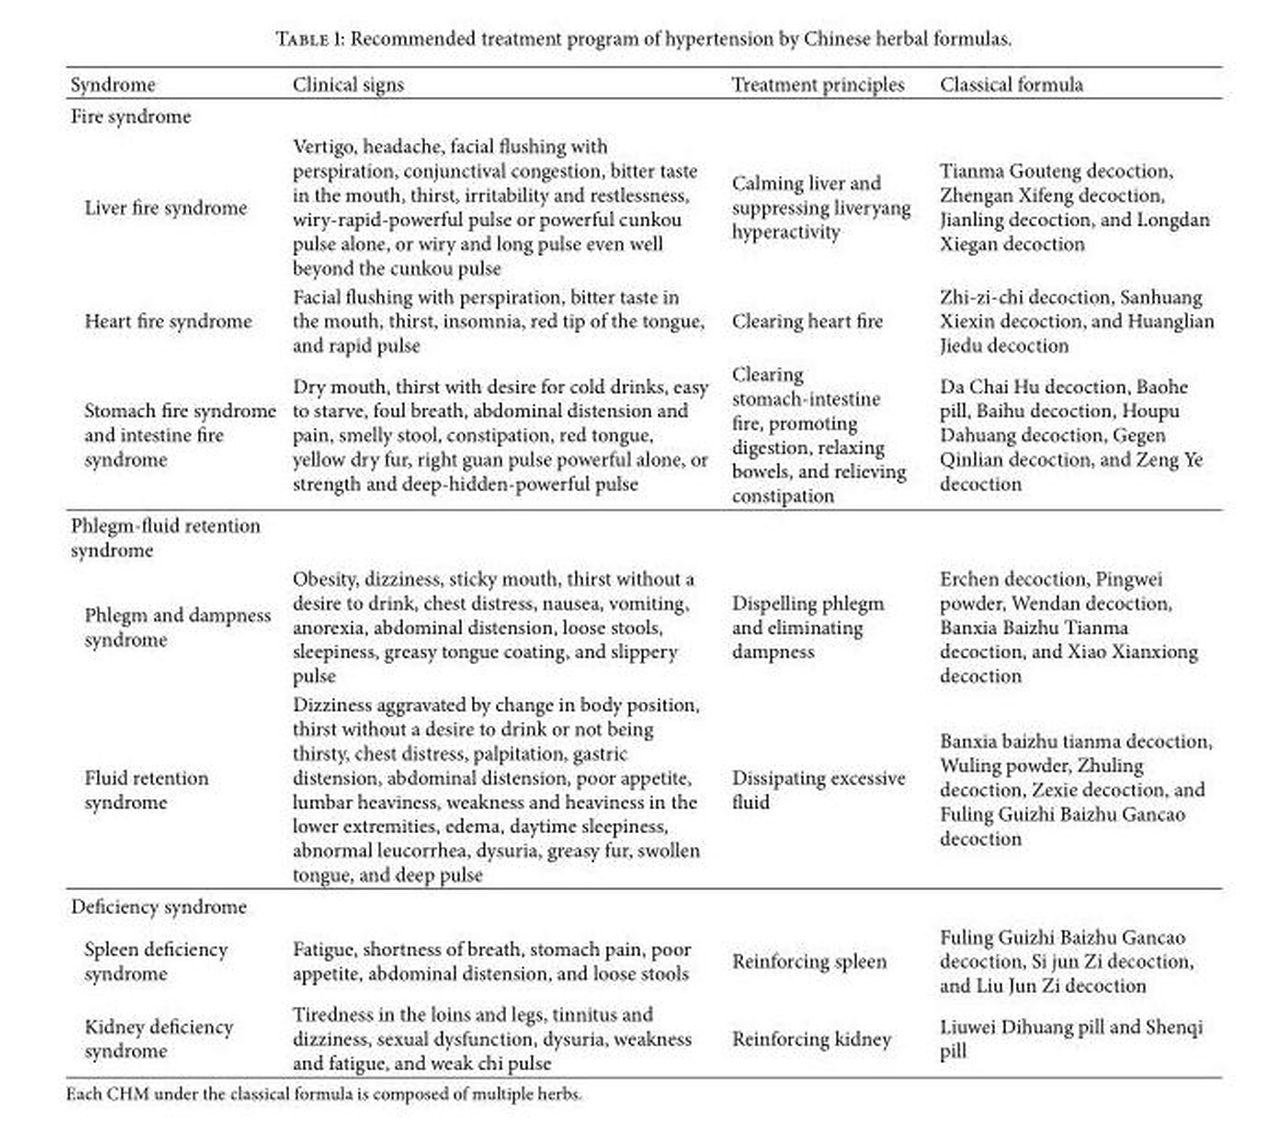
<table><thead><tr><td>Syndrome</td><td>Clinical signs</td><td>Treatment principles</td><td>Classical formula</td></tr></thead><tbody><tr><td colspan="4">Fire syndrome</td></tr><tr><td>Liver fire syndrome</td><td>Vertigo, headache, facial flushing with perspiration, conjunctival congestion, bitter taste in the mouth, thirst, irritability and restlessness, wiry-rapid-powerful pulse or powerful cunkou pulse alone, or wiry and long pulse even well beyond the cunkou pulse</td><td>Calming liver and suppressing liveryang hyperactivity</td><td>Tianma Gouteng decoction, Zhengan Xifeng decoction, Jianling decoction, and Longdan Xiegan decoction</td></tr><tr><td>Heart fire syndrome</td><td>Facial flushing with perspiration, bitter taste in the mouth, thirst, insomnia, red tip of the tongue, and rapid pulse</td><td>Clearing heart fire</td><td>Zhi-zi-chi decoction, Sanhuang Xiexin decoction, and Huanglian Jiedu decoction</td></tr><tr><td>Stomach fire syndrome and intestine fire syndrome</td><td>Dry mouth, thirst with desire for cold drinks, easy to starve, foul breath, abdominal distension and pain, smelly stool, constipation, red tongue, yellow dry fur, right guan pulse powerful alone, or strength and deep-hidden-powerful pulse</td><td>Clearing stomach-intestine fire, promoting digestion, relaxing bowels, and relieving constipation</td><td>Da Chai Hu decoction, Baohe pill, Baihu decoction, Houpu Dahuang decoction, Gegen Qinlian decoction, and Zeng Ye decoction</td></tr><tr><td colspan="4">Phlegm-fluid retention syndrome</td></tr><tr><td>Phlegm and dampness syndrome</td><td>Obesity, dizziness, sticky mouth, thirst without a desire to drink, chest distress, nausea, vomiting, anorexia, abdominal distension, loose stools, sleepiness, greasy tongue coating, and slippery pulse</td><td>Dispelling phlegm and eliminating dampness</td><td>Erchen decoction, Pingwei powder, Wendan decoction, Banxia Baizhu Tianma decoction, and Xiao Xianxiong decoction</td></tr><tr><td>Fluid retention syndrome</td><td>Dizziness aggravated by change in body position, thirst without a desire to drink or not being thirsty, chest distress, palpitation, gastric distension, abdominal distension, poor appetite, lumbar heaviness, weakness and heaviness in the lower extremities, edema, daytime sleepiness, abnormal leucorrhea, dysuria, greasy fur, swollen tongue, and deep pulse</td><td>Dissipating excessive fluid</td><td>Banxia baizhu tianma decoction, Wuling powder, Zhuling decoction, Zexie decoction, and Fuling Guizhi Baizhu Gancao decoction</td></tr><tr><td colspan="4">Deficiency syndrome</td></tr><tr><td>Spleen deficiency syndrome</td><td>Fatigue, shortness of breath, stomach pain, poor appetite, abdominal distension, and loose stools</td><td>Reinforcing spleen</td><td>Fuling Guizhi Baizhu Gancao decoction, Si jun Zi decoction, and Liu Jun Zi decoction</td></tr><tr><td>Kidney deficiency syndrome</td><td>Tiredness in the loins and legs, tinnitus and dizziness, sexual dysfunction, dysuria, weakness and fatigue, and weak chi pulse</td><td>Reinforcing kidney</td><td>Liuwei Dihuang pill and Shenqi pill</td></tr></tbody></table>